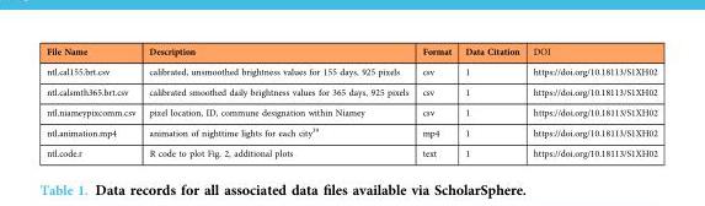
<table><thead><tr><td>File Name</td><td>Description</td><td>Format</td><td>Data Citation</td><td>DOI</td></tr></thead><tbody><tr><td>ntl.cal155.brt.csv</td><td>calibrated, unsmoothed brightness values for 155 days, 925 pixels</td><td>csv</td><td>1</td><td>https://doi.org/10.18113/S1XH02</td></tr><tr><td>ntl.calsmth365.brt.csv</td><td>calibrated smoothed daily brightness values for 365 days, 925 pixels</td><td>csv</td><td>1</td><td>https://doi.org/10.18113/S1XH02</td></tr><tr><td>ntl.niameypixcomm.csv</td><td>pixel location, ID, commune designation within Niamey</td><td>csv</td><td>1</td><td>https://doi.org/10.18113/S1XH02</td></tr><tr><td>ntl.animation.mp4</td><td>animation of nighttime lights for each city<sup>39</sup></td><td>mp4</td><td>1</td><td>https://doi.org/10.18113/S1XH02</td></tr><tr><td>ntl.code.r</td><td>R code to plot Fig. 2, additional plots</td><td>text</td><td>1</td><td>https://doi.org/10.18113/S1XH02</td></tr></tbody></table>